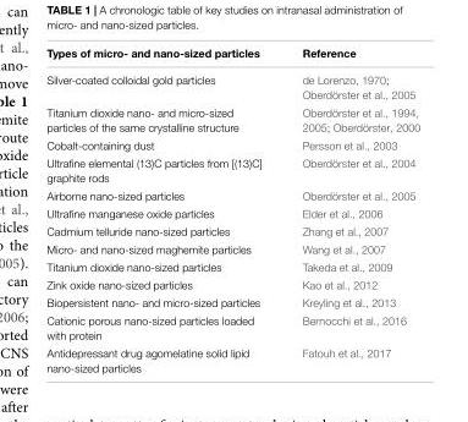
<table><thead><tr><td>Types of micro- and nano-sized particles</td><td>Reference</td></tr></thead><tbody><tr><td>Silver-coated colloidal gold particles</td><td>de Lorenzo, 1970; Oberdörster et al., 2005</td></tr><tr><td>Titanium dioxide nano- and micro-sized particles of the same crystalline structure</td><td>Oberdörster et al., 1994, 2005; Oberdörster, 2000</td></tr><tr><td>Cobalt-containing dust</td><td>Persson et al., 2003</td></tr><tr><td>Ultrafine elemental (13)C particles from [(13)C] graphite rods</td><td>Oberdörster et al., 2004</td></tr><tr><td>Airborne nano-sized particles</td><td>Oberdörster et al., 2005</td></tr><tr><td>Ultrafine manganese oxide particles</td><td>Elder et al., 2006</td></tr><tr><td>Cadmium telluride nano-sized particles</td><td>Zhang et al., 2007</td></tr><tr><td>Micro- and nano-sized maghemite particles</td><td>Wang et al., 2007</td></tr><tr><td>Titanium dioxide nano-sized particles</td><td>Takeda et al., 2009</td></tr><tr><td>Zink oxide nano-sized particles</td><td>Kao et al., 2012</td></tr><tr><td>Biopersistent nano- and micro-sized particles</td><td>Kreyling et al., 2013</td></tr><tr><td>Cationic porous nano-sized particles loaded with protein</td><td>Bernocchi et al., 2016</td></tr><tr><td>Antidepressant drug agomelatine solid lipid nano-sized particles</td><td>Fatouh et al., 2017</td></tr></tbody></table>